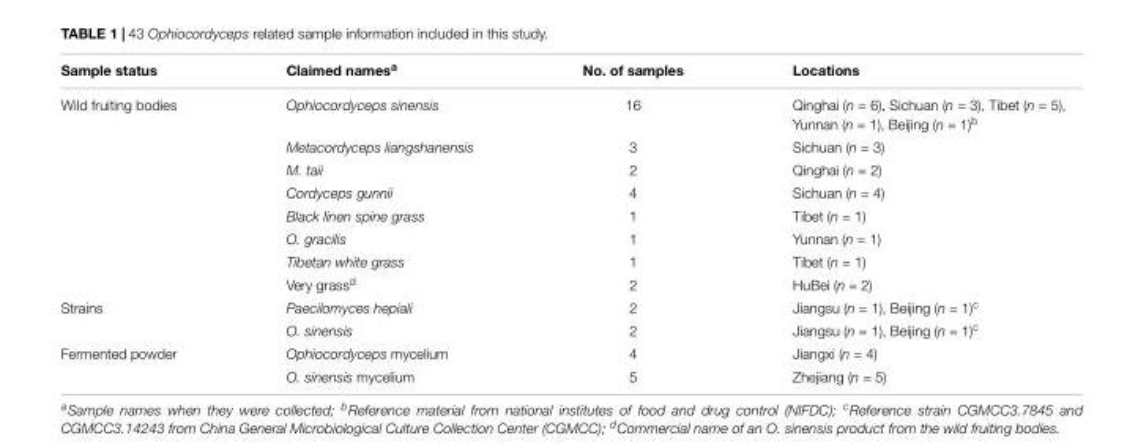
<table><thead><tr><td>Sample status</td><td>Claimed names<sup>a</sup></td><td>No. of samples</td><td>Locations</td></tr></thead><tbody><tr><td rowspan="8">Wild fruiting bodies</td><td>Ophiocordyceps sinensis</td><td>16</td><td>Qinghai (n = 6), Sichuan (n = 3), Tibet (n = 5), Yunnan (n = 1), Beijing (n = 1)<sup>b</sup></td></tr><tr><td>Metacordyceps liangshanensis</td><td>3</td><td>Sichuan (n = 3)</td></tr><tr><td>M. taii</td><td>2</td><td>Qinghai (n = 2)</td></tr><tr><td>Cordyceps gunnii</td><td>4</td><td>Sichuan (n = 4)</td></tr><tr><td>Black linen spine grass</td><td>1</td><td>Tibet (n = 1)</td></tr><tr><td>O. gracilis</td><td>1</td><td>Yunnan (n = 1)</td></tr><tr><td>Tibetan white grass</td><td>1</td><td>Tibet (n = 1)</td></tr><tr><td>Very grass<sup>d</sup></td><td>2</td><td>HuBei (n = 2)</td></tr><tr><td rowspan="2">Strains</td><td>Paecilomyces hepiali</td><td>2</td><td>Jiangsu (n = 1), Beijing (n = 1)<sup>c</sup></td></tr><tr><td>O. sinensis</td><td>2</td><td>Jiangsu (n = 1), Beijing (n = 1)<sup>c</sup></td></tr><tr><td rowspan="2">Fermented powder</td><td>Ophiocordyceps mycelium</td><td>4</td><td>Jiangxi (n = 4)</td></tr><tr><td>O. sinensis mycelium</td><td>5</td><td>Zhejiang (n = 5)</td></tr></tbody></table>